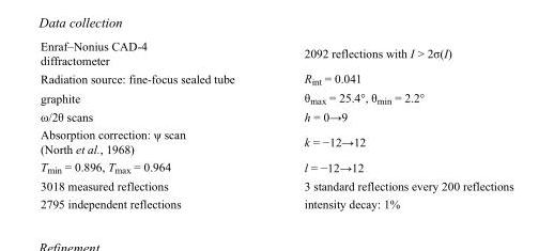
<table><tbody><tr><td>Enraf–Nonius CAD-4 diffractometer</td><td>2092 reflections with I &gt; 2σ(I)</td></tr><tr><td>Radiation source: fine-focus sealed tube</td><td>R<sub>int</sub> = 0.041</td></tr><tr><td>graphite</td><td>θ<sub>max</sub> = 25.4°, θ<sub>min</sub> = 2.2°</td></tr><tr><td>ω/2θ scans</td><td>h = 0→9</td></tr><tr><td>Absorption correction: ψ scan (North et al., 1968)</td><td>k = −12→12</td></tr><tr><td>T<sub>min</sub> = 0.896, T<sub>max</sub> = 0.964</td><td>l = −12→12</td></tr><tr><td>3018 measured reflections</td><td>3 standard reflections every 200 reflections</td></tr><tr><td>2795 independent reflections</td><td>intensity decay: 1%</td></tr></tbody></table>